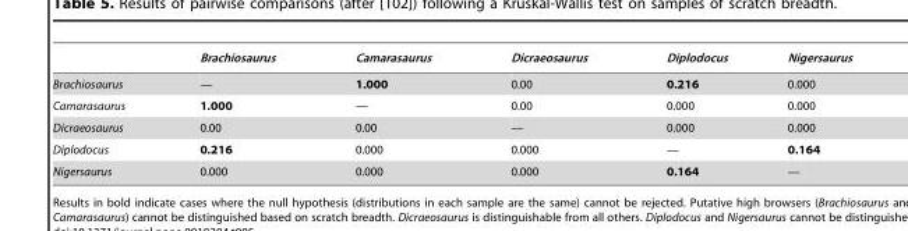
<table><thead><tr><td></td><td>Brachiosaurus</td><td>Camarasaurus</td><td>Dicraeosaurus</td><td>Diplodocus</td><td>Nigersaurus</td></tr></thead><tbody><tr><td>Brachiosaurus</td><td>—</td><td>1.000</td><td>0.00</td><td>0.216</td><td>0.000</td></tr><tr><td>Camarasaurus</td><td>1.000</td><td>—</td><td>0.00</td><td>0.000</td><td>0.000</td></tr><tr><td>Dicraeosaurus</td><td>0.00</td><td>0.00</td><td>—</td><td>0.000</td><td>0.000</td></tr><tr><td>Diplodocus</td><td>0.216</td><td>0.000</td><td>0.000</td><td>—</td><td>0.164</td></tr><tr><td>Nigersaurus</td><td>0.000</td><td>0.000</td><td>0.000</td><td>0.164</td><td>—</td></tr></tbody></table>